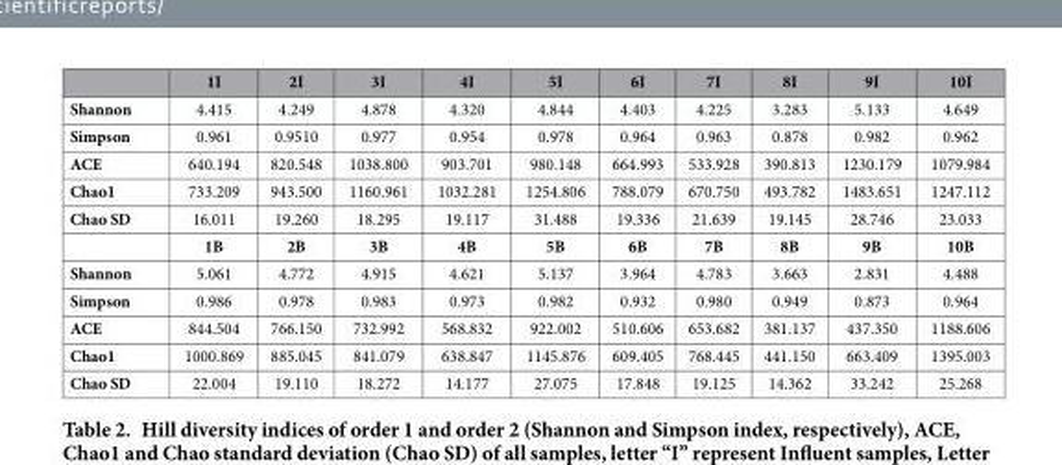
<table><thead><tr><td></td><td>1I</td><td>2I</td><td>3I</td><td>4I</td><td>5I</td><td>6I</td><td>7I</td><td>8I</td><td>9I</td><td>10I</td></tr></thead><tbody><tr><td>Shannon</td><td>4.415</td><td>4.249</td><td>4.878</td><td>4.320</td><td>4.844</td><td>4.403</td><td>4.225</td><td>3.283</td><td>5.133</td><td>4.649</td></tr><tr><td>Simpson</td><td>0.961</td><td>0.9510</td><td>0.977</td><td>0.954</td><td>0.978</td><td>0.964</td><td>0.963</td><td>0.878</td><td>0.982</td><td>0.962</td></tr><tr><td>ACE</td><td>640.194</td><td>820.548</td><td>1038.800</td><td>903.701</td><td>980.148</td><td>664.993</td><td>533.928</td><td>390.813</td><td>1230.179</td><td>1079.984</td></tr><tr><td>Chao1</td><td>733.209</td><td>943.500</td><td>1160.961</td><td>1032.281</td><td>1254.806</td><td>788.079</td><td>670.750</td><td>493.782</td><td>1483.651</td><td>1247.112</td></tr><tr><td rowspan="2">Chao SD</td><td>16.011</td><td>19.260</td><td>18.295</td><td>19.117</td><td>31.488</td><td>19.336</td><td>21.639</td><td>19.145</td><td>28.746</td><td>23.033</td></tr><tr><td>1B</td><td>2B</td><td>3B</td><td>4B</td><td>5B</td><td>6B</td><td>7B</td><td>8B</td><td>9B</td><td>10B</td></tr><tr><td>Shannon</td><td>5.061</td><td>4.772</td><td>4.915</td><td>4.621</td><td>5.137</td><td>3.964</td><td>4.783</td><td>3.663</td><td>2.831</td><td>4.488</td></tr><tr><td>Simpson</td><td>0.986</td><td>0.978</td><td>0.983</td><td>0.973</td><td>0.982</td><td>0.932</td><td>0.980</td><td>0.949</td><td>0.873</td><td>0.964</td></tr><tr><td>ACE</td><td>844.504</td><td>766.150</td><td>732.992</td><td>568.832</td><td>922.002</td><td>510.606</td><td>653.682</td><td>381.137</td><td>437.350</td><td>1188.606</td></tr><tr><td>Chao1</td><td>1000.869</td><td>885.045</td><td>841.079</td><td>638.847</td><td>1145.876</td><td>609.405</td><td>768.445</td><td>441.150</td><td>663.409</td><td>1395.003</td></tr><tr><td>Chao SD</td><td>22.004</td><td>19.110</td><td>18.272</td><td>14.177</td><td>27.075</td><td>17.848</td><td>19.125</td><td>14.362</td><td>33.242</td><td>25.268</td></tr></tbody></table>